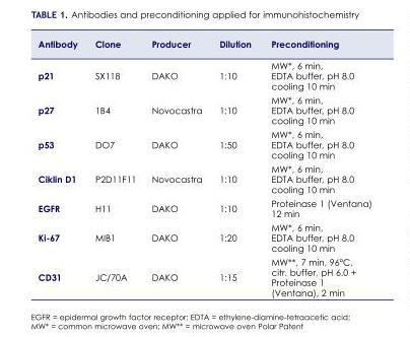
<table><thead><tr><td>Antibody</td><td>Clone</td><td>Producer</td><td>Dilution</td><td>Preconditioning</td></tr></thead><tbody><tr><td>p21</td><td>SX118</td><td>DAKO</td><td>1:10</td><td>MW*, 6 min, EDTA buffer, pH 8.0 cooling 10 min</td></tr><tr><td>p27</td><td>1B4</td><td>Novocastra</td><td>1:10</td><td>MW*, 6 min, EDTA buffer, pH 8.0 cooling 10 min</td></tr><tr><td>p53</td><td>DO7</td><td>DAKO</td><td>1:50</td><td>MW*, 6 min, EDTA buffer, pH 8.0 cooling 10 min</td></tr><tr><td>Ciklin D1</td><td>P2D11F11</td><td>Novocastra</td><td>1:10</td><td>MW*, 6 min, EDTA buffer, pH 8.0 cooling 10 min</td></tr><tr><td>EGFR</td><td>H11</td><td>DAKO</td><td>1:10</td><td>Proteinase 1 (Ventana) 12 min</td></tr><tr><td>Ki-67</td><td>MIB1</td><td>DAKO</td><td>1:20</td><td>MW*, 6 min, EDTA buffer, pH 8.0 cooling 10 min</td></tr><tr><td>CD31</td><td>JC/70A</td><td>DAKO</td><td>1:15</td><td>MW**, 7 min, 96°C, citr. buffer, pH 6.0 + Proteinase 1 (Ventana), 2 min</td></tr></tbody></table>